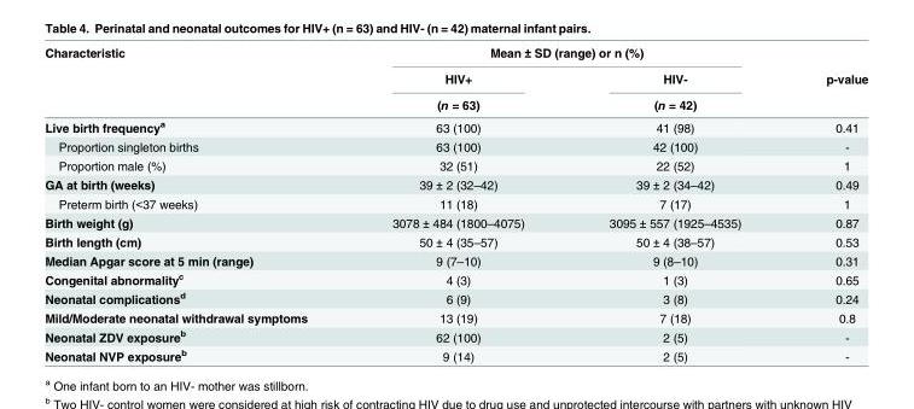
<table><thead><tr><td rowspan="3">Characteristic</td><td colspan="2">Mean ± SD (range) or n (%)</td><td rowspan="3">p-value</td></tr><tr><td rowspan="2">HIV+ (n = 63)</td><td rowspan="2">HIV- (n = 42)</td></tr><tr></tr></thead><tbody><tr><td>Live birth frequency<sup>a</sup></td><td>63 (100)</td><td>41 (98)</td><td>0.41</td></tr><tr><td>Proportion singleton births</td><td>63 (100)</td><td>42 (100)</td><td>-</td></tr><tr><td>Proportion male (%)</td><td>32 (51)</td><td>22 (52)</td><td>1</td></tr><tr><td>GA at birth (weeks)</td><td>39 ± 2 (32–42)</td><td>39 ± 2 (34–42)</td><td>0.49</td></tr><tr><td>Preterm birth (&lt;37 weeks)</td><td>11 (18)</td><td>7 (17)</td><td>1</td></tr><tr><td>Birth weight (g)</td><td>3078 ± 484 (1800–4075)</td><td>3095 ± 557 (1925–4535)</td><td>0.87</td></tr><tr><td>Birth length (cm)</td><td>50 ± 4 (35–57)</td><td>50 ± 4 (38–57)</td><td>0.53</td></tr><tr><td>Median Apgar score at 5 min (range)</td><td>9 (7–10)</td><td>9 (8–10)</td><td>0.31</td></tr><tr><td>Congenital abnormality<sup>c</sup></td><td>4 (3)</td><td>1 (3)</td><td>0.65</td></tr><tr><td>Neonatal complications<sup>d</sup></td><td>6 (9)</td><td>3 (8)</td><td>0.24</td></tr><tr><td>Mild/Moderate neonatal withdrawal symptoms</td><td>13 (19)</td><td>7 (18)</td><td>0.8</td></tr><tr><td>Neonatal ZDV exposure<sup>b</sup></td><td>62 (100)</td><td>2 (5)</td><td>-</td></tr><tr><td>Neonatal NVP exposure<sup>b</sup></td><td>9 (14)</td><td>2 (5)</td><td>-</td></tr></tbody></table>